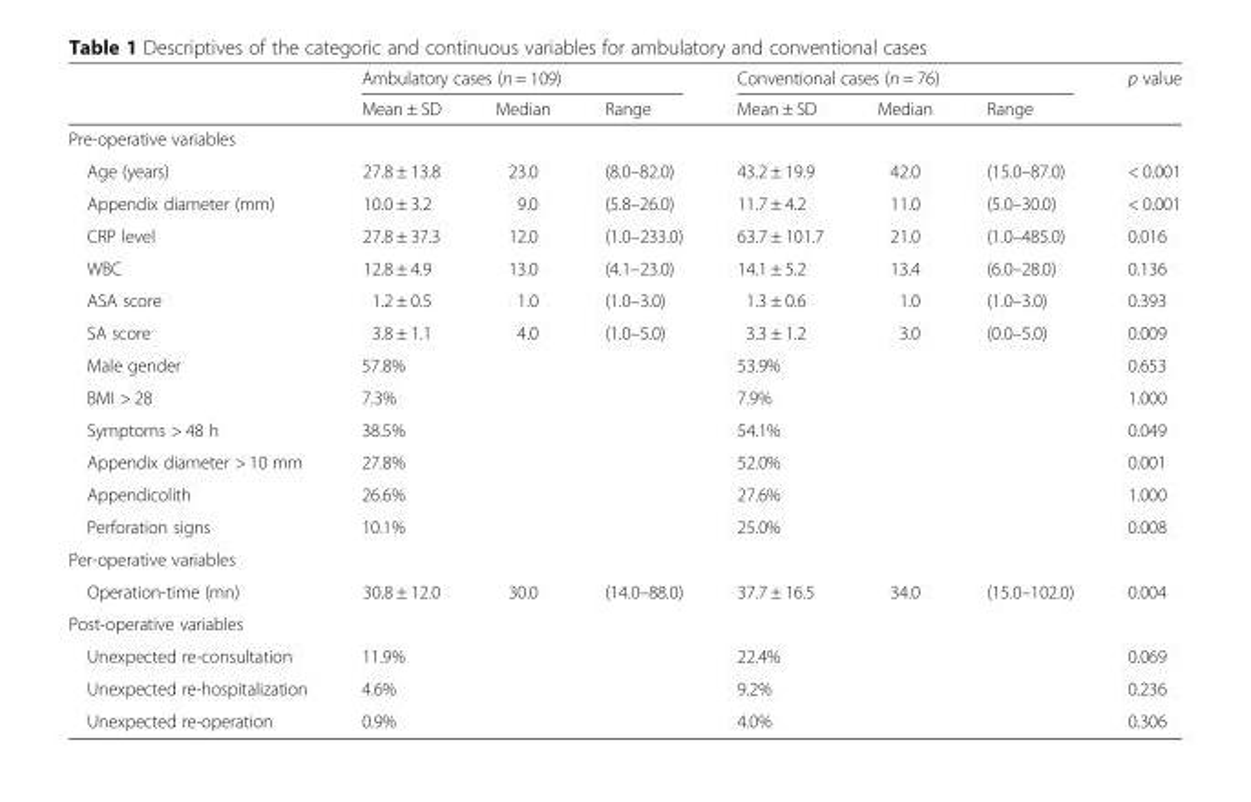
<table><thead><tr><td rowspan="2"></td><td colspan="3">Ambulatory cases (n = 109)</td><td colspan="3">Conventional cases (n = 76)</td><td rowspan="2">p value</td></tr><tr><td>Mean ± SD</td><td>Median</td><td>Range</td><td>Mean ± SD</td><td>Median</td><td>Range</td></tr></thead><tbody><tr><td colspan="8">Pre-operative variables</td></tr><tr><td>Age (years)</td><td>27.8 ± 13.8</td><td>23.0</td><td>(8.0–82.0)</td><td>43.2 ± 19.9</td><td>42.0</td><td>(15.0–87.0)</td><td>&lt; 0.001</td></tr><tr><td>Appendix diameter (mm)</td><td>10.0 ± 3.2</td><td>9.0</td><td>(5.8–26.0)</td><td>11.7 ± 4.2</td><td>11.0</td><td>(5.0–30.0)</td><td>&lt; 0.001</td></tr><tr><td>CRP level</td><td>27.8 ± 37.3</td><td>12.0</td><td>(1.0–233.0)</td><td>63.7 ± 101.7</td><td>21.0</td><td>(1.0–485.0)</td><td>0.016</td></tr><tr><td>WBC</td><td>12.8 ± 4.9</td><td>13.0</td><td>(4.1–23.0)</td><td>14.1 ± 5.2</td><td>13.4</td><td>(6.0–28.0)</td><td>0.136</td></tr><tr><td>ASA score</td><td>1.2 ± 0.5</td><td>1.0</td><td>(1.0–3.0)</td><td>1.3 ± 0.6</td><td>1.0</td><td>(1.0–3.0)</td><td>0.393</td></tr><tr><td>SA score</td><td>3.8 ± 1.1</td><td>4.0</td><td>(1.0–5.0)</td><td>3.3 ± 1.2</td><td>3.0</td><td>(0.0–5.0)</td><td>0.009</td></tr><tr><td>Male gender</td><td>57.8%</td><td></td><td></td><td>53.9%</td><td></td><td></td><td>0.653</td></tr><tr><td>BMI &gt; 28</td><td>7.3%</td><td></td><td></td><td>7.9%</td><td></td><td></td><td>1.000</td></tr><tr><td>Symptoms &gt; 48 h</td><td>38.5%</td><td></td><td></td><td>54.1%</td><td></td><td></td><td>0.049</td></tr><tr><td>Appendix diameter &gt; 10 mm</td><td>27.8%</td><td></td><td></td><td>52.0%</td><td></td><td></td><td>0.001</td></tr><tr><td>Appendicolith</td><td>26.6%</td><td></td><td></td><td>27.6%</td><td></td><td></td><td>1.000</td></tr><tr><td>Perforation signs</td><td>10.1%</td><td></td><td></td><td>25.0%</td><td></td><td></td><td>0.008</td></tr><tr><td colspan="8">Per-operative variables</td></tr><tr><td>Operation-time (mn)</td><td>30.8 ± 12.0</td><td>30.0</td><td>(14.0–88.0)</td><td>37.7 ± 16.5</td><td>34.0</td><td>(15.0–102.0)</td><td>0.004</td></tr><tr><td colspan="8">Post-operative variables</td></tr><tr><td>Unexpected re-consultation</td><td>11.9%</td><td></td><td></td><td>22.4%</td><td></td><td></td><td>0.069</td></tr><tr><td>Unexpected re-hospitalization</td><td>4.6%</td><td></td><td></td><td>9.2%</td><td></td><td></td><td>0.236</td></tr><tr><td>Unexpected re-operation</td><td>0.9%</td><td></td><td></td><td>4.0%</td><td></td><td></td><td>0.306</td></tr></tbody></table>